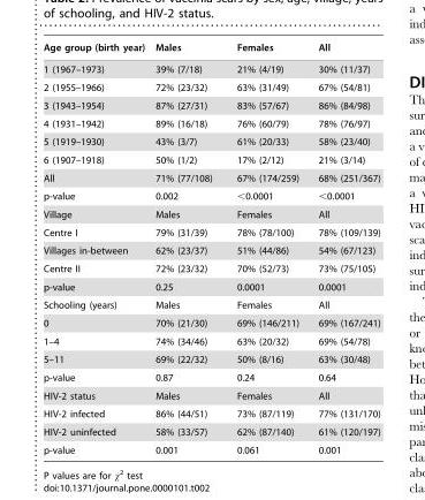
<table><thead><tr><td>Age group (birth year)</td><td>Males</td><td>Females</td><td>All</td></tr></thead><tbody><tr><td>1 (1967–1973)</td><td>39% (7/18)</td><td>21% (4/19)</td><td>30% (11/37)</td></tr><tr><td>2 (1955–1966)</td><td>72% (23/32)</td><td>63% (31/49)</td><td>67% (54/81)</td></tr><tr><td>3 (1943–1954)</td><td>87% (27/31)</td><td>83% (57/67)</td><td>86% (84/98)</td></tr><tr><td>4 (1931–1942)</td><td>89% (16/18)</td><td>76% (60/79)</td><td>78% (76/97)</td></tr><tr><td>5 (1919–1930)</td><td>43% (3/7)</td><td>61% (20/33)</td><td>58% (23/40)</td></tr><tr><td>6 (1907–1918)</td><td>50% (1/2)</td><td>17% (2/12)</td><td>21% (3/14)</td></tr><tr><td>All</td><td>71% (77/108)</td><td>67% (174/259)</td><td>68% (251/367)</td></tr><tr><td>p-value</td><td>0.002</td><td>&lt;0.0001</td><td>&lt;0.0001</td></tr><tr><td>Village</td><td>Males</td><td>Females</td><td>All</td></tr><tr><td>Centre I</td><td>79% (31/39)</td><td>78% (78/100)</td><td>78% (109/139)</td></tr><tr><td>Villages in-between</td><td>62% (23/37)</td><td>51% (44/86)</td><td>54% (67/123)</td></tr><tr><td>Centre II</td><td>72% (23/32)</td><td>70% (52/73)</td><td>73% (75/105)</td></tr><tr><td>p-value</td><td>0.25</td><td>0.0001</td><td>0.0001</td></tr><tr><td>Schooling (years)</td><td>Males</td><td>Females</td><td>All</td></tr><tr><td>0</td><td>70% (21/30)</td><td>69% (146/211)</td><td>69% (167/241)</td></tr><tr><td>1–4</td><td>74% (34/46)</td><td>63% (20/32)</td><td>69% (54/78)</td></tr><tr><td>5–11</td><td>69% (22/32)</td><td>50% (8/16)</td><td>63% (30/48)</td></tr><tr><td>p-value</td><td>0.87</td><td>0.24</td><td>0.64</td></tr><tr><td>HIV-2 status</td><td>Males</td><td>Females</td><td>All</td></tr><tr><td>HIV-2 infected</td><td>86% (44/51)</td><td>73% (87/119)</td><td>77% (131/170)</td></tr><tr><td>HIV-2 uninfected</td><td>58% (33/57)</td><td>62% (87/140)</td><td>61% (120/197)</td></tr><tr><td>p-value</td><td>0.001</td><td>0.061</td><td>0.001</td></tr></tbody></table>